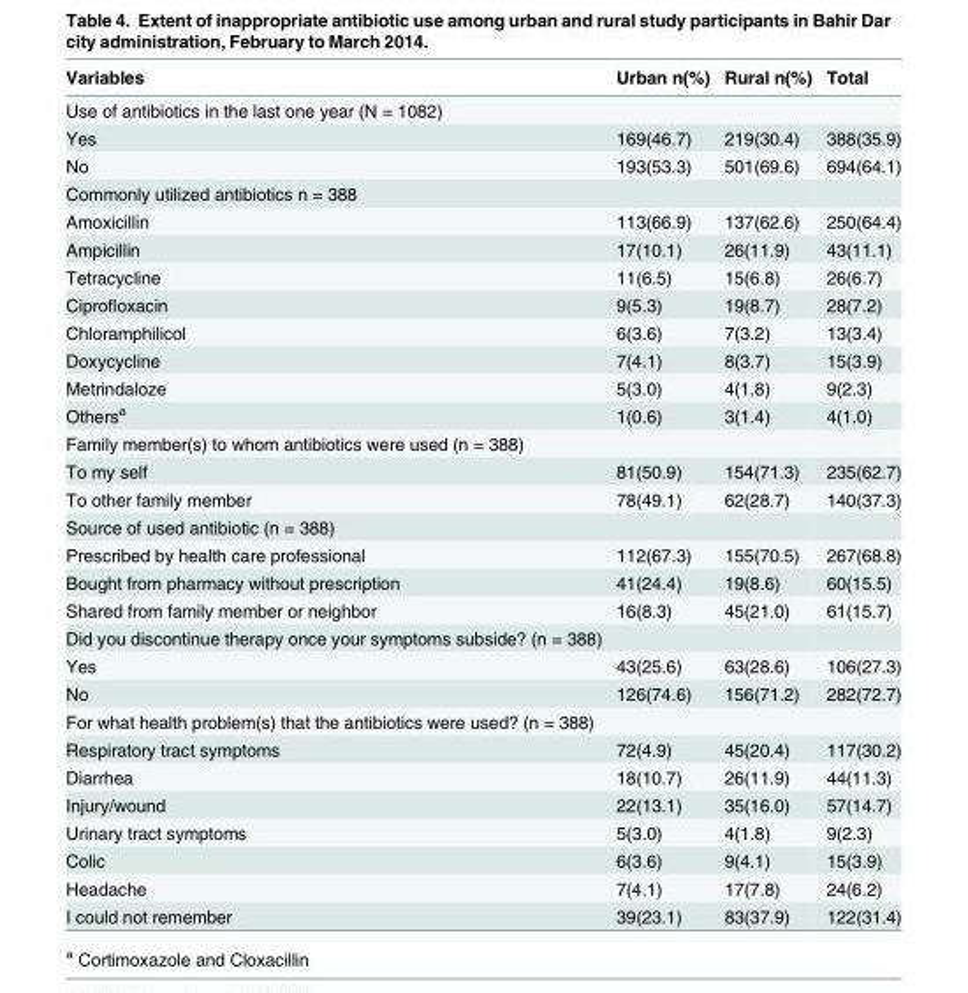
<table><thead><tr><td>Variables</td><td>Urban n(%)</td><td>Rural n(%)</td><td>Total</td></tr></thead><tbody><tr><td colspan="4">Use of antibiotics in the last one year (N = 1082)</td></tr><tr><td>Yes</td><td>169(46.7)</td><td>219(30.4)</td><td>388(35.9)</td></tr><tr><td>No</td><td>193(53.3)</td><td>501(69.6)</td><td>694(64.1)</td></tr><tr><td colspan="4">Commonly utilized antibiotics n = 388</td></tr><tr><td>Amoxicillin</td><td>113(66.9)</td><td>137(62.6)</td><td>250(64.4)</td></tr><tr><td>Ampicillin</td><td>17(10.1)</td><td>26(11.9)</td><td>43(11.1)</td></tr><tr><td>Tetracycline</td><td>11(6.5)</td><td>15(6.8)</td><td>26(6.7)</td></tr><tr><td>Ciprofloxacin</td><td>9(5.3)</td><td>19(8.7)</td><td>28(7.2)</td></tr><tr><td>Chloramphilicol</td><td>6(3.6)</td><td>7(3.2)</td><td>13(3.4)</td></tr><tr><td>Doxycycline</td><td>7(4.1)</td><td>8(3.7)</td><td>15(3.9)</td></tr><tr><td>Metrindaloze</td><td>5(3.0)</td><td>4(1.8)</td><td>9(2.3)</td></tr><tr><td>Others<sup>a</sup></td><td>1(0.6)</td><td>3(1.4)</td><td>4(1.0)</td></tr><tr><td colspan="4">Family member(s) to whom antibiotics were used (n = 388)</td></tr><tr><td>To my self</td><td>81(50.9)</td><td>154(71.3)</td><td>235(62.7)</td></tr><tr><td>To other family member</td><td>78(49.1)</td><td>62(28.7)</td><td>140(37.3)</td></tr><tr><td colspan="4">Source of used antibiotic (n = 388)</td></tr><tr><td>Prescribed by health care professional</td><td>112(67.3)</td><td>155(70.5)</td><td>267(68.8)</td></tr><tr><td>Bought from pharmacy without prescription</td><td>41(24.4)</td><td>19(8.6)</td><td>60(15.5)</td></tr><tr><td>Shared from family member or neighbor</td><td>16(8.3)</td><td>45(21.0)</td><td>61(15.7)</td></tr><tr><td colspan="4">Did you discontinue therapy once your symptoms subside? (n = 388)</td></tr><tr><td>Yes</td><td>43(25.6)</td><td>63(28.6)</td><td>106(27.3)</td></tr><tr><td>No</td><td>126(74.6)</td><td>156(71.2)</td><td>282(72.7)</td></tr><tr><td colspan="4">For what health problem(s) that the antibiotics were used? (n = 388)</td></tr><tr><td>Respiratory tract symptoms</td><td>72(4.9)</td><td>45(20.4)</td><td>117(30.2)</td></tr><tr><td>Diarrhea</td><td>18(10.7)</td><td>26(11.9)</td><td>44(11.3)</td></tr><tr><td>Injury/wound</td><td>22(13.1)</td><td>35(16.0)</td><td>57(14.7)</td></tr><tr><td>Urinary tract symptoms</td><td>5(3.0)</td><td>4(1.8)</td><td>9(2.3)</td></tr><tr><td>Colic</td><td>6(3.6)</td><td>9(4.1)</td><td>15(3.9)</td></tr><tr><td>Headache</td><td>7(4.1)</td><td>17(7.8)</td><td>24(6.2)</td></tr><tr><td>I could not remember</td><td>39(23.1)</td><td>83(37.9)</td><td>122(31.4)</td></tr></tbody></table>